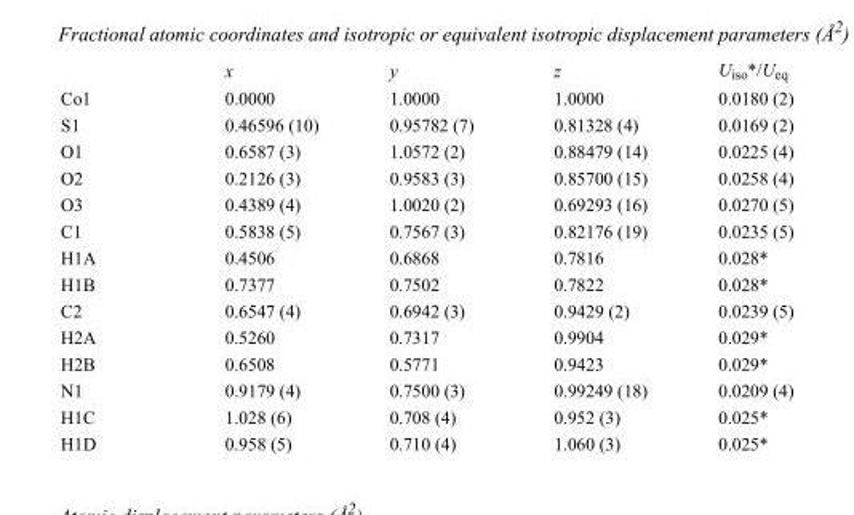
<table><thead><tr><td></td><td>x</td><td>y</td><td>z</td><td>U<sub>iso</sub>*/U<sub>eq</sub></td></tr></thead><tbody><tr><td>Co1</td><td>0.0000</td><td>1.0000</td><td>1.0000</td><td>0.0180 (2)</td></tr><tr><td>S1</td><td>0.46596 (10)</td><td>0.95782 (7)</td><td>0.81328 (4)</td><td>0.0169 (2)</td></tr><tr><td>O1</td><td>0.6587 (3)</td><td>1.0572 (2)</td><td>0.88479 (14)</td><td>0.0225 (4)</td></tr><tr><td>O2</td><td>0.2126 (3)</td><td>0.9583 (3)</td><td>0.85700 (15)</td><td>0.0258 (4)</td></tr><tr><td>O3</td><td>0.4389 (4)</td><td>1.0020 (2)</td><td>0.69293 (16)</td><td>0.0270 (5)</td></tr><tr><td>C1</td><td>0.5838 (5)</td><td>0.7567 (3)</td><td>0.82176 (19)</td><td>0.0235 (5)</td></tr><tr><td>H1A</td><td>0.4506</td><td>0.6868</td><td>0.7816</td><td>0.028*</td></tr><tr><td>H1B</td><td>0.7377</td><td>0.7502</td><td>0.7822</td><td>0.028*</td></tr><tr><td>C2</td><td>0.6547 (4)</td><td>0.6942 (3)</td><td>0.9429 (2)</td><td>0.0239 (5)</td></tr><tr><td>H2A</td><td>0.5260</td><td>0.7317</td><td>0.9904</td><td>0.029*</td></tr><tr><td>H2B</td><td>0.6508</td><td>0.5771</td><td>0.9423</td><td>0.029*</td></tr><tr><td>N1</td><td>0.9179 (4)</td><td>0.7500 (3)</td><td>0.99249 (18)</td><td>0.0209 (4)</td></tr><tr><td>H1C</td><td>1.028 (6)</td><td>0.708 (4)</td><td>0.952 (3)</td><td>0.025*</td></tr><tr><td>H1D</td><td>0.958 (5)</td><td>0.710 (4)</td><td>1.060 (3)</td><td>0.025*</td></tr></tbody></table>